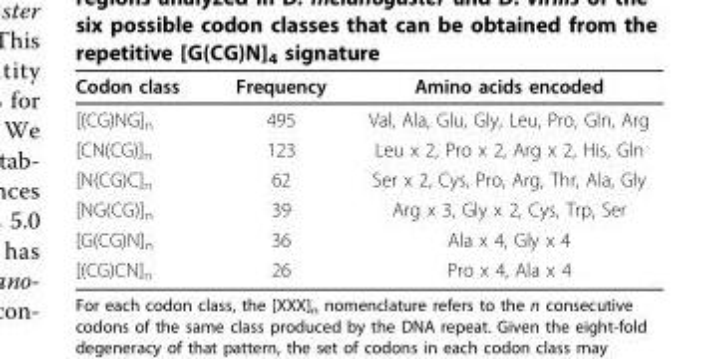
<table><thead><tr><td>Codon class</td><td>Frequency</td><td>Amino acids encoded</td></tr></thead><tbody><tr><td>[(CG)NG]<sub>n</sub></td><td>495</td><td>Val, Ala, Glu, Gly, Leu, Pro, Gln, Arg</td></tr><tr><td>[CN(CG)]<sub>n</sub></td><td>123</td><td>Leu x 2, Pro x 2, Arg x 2, His, Gln</td></tr><tr><td>[N(CG)C]<sub>n</sub></td><td>62</td><td>Ser x 2, Cys, Pro, Arg, Thr, Ala, Gly</td></tr><tr><td>[NG(CG)]<sub>n</sub></td><td>39</td><td>Arg x 3, Gly x 2, Cys, Trp, Ser</td></tr><tr><td>[G(CG)N]<sub>n</sub></td><td>36</td><td>Ala x 4, Gly x 4</td></tr><tr><td>[(CG)CN]<sub>n</sub></td><td>26</td><td>Pro x 4, Ala x 4</td></tr></tbody></table>